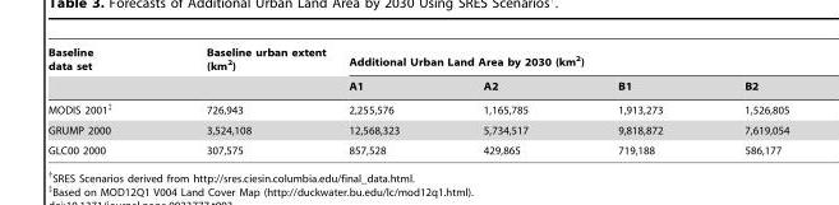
<table><thead><tr><td rowspan="2">Baseline data set</td><td rowspan="2">Baseline urban extent (km<sup>2</sup>)</td><td colspan="4">Additional Urban Land Area by 2030 (km<sup>2</sup>)</td></tr><tr><td>A1</td><td>A2</td><td>B1</td><td>B2</td></tr></thead><tbody><tr><td>MODIS 2001‡</td><td>726,943</td><td>2,255,576</td><td>1,165,785</td><td>1,913,273</td><td>1,526,805</td></tr><tr><td>GRUMP 2000</td><td>3,524,108</td><td>12,568,323</td><td>5,734,517</td><td>9,818,872</td><td>7,619,054</td></tr><tr><td>GLC00 2000</td><td>307,575</td><td>857,528</td><td>429,865</td><td>719,188</td><td>586,177</td></tr></tbody></table>